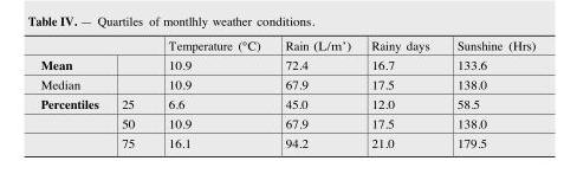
<table><thead><tr><td></td><td></td><td>Temperature (°C)</td><td>Rain (L/m’)</td><td>Rainy days</td><td>Sunshine (Hrs)</td></tr></thead><tbody><tr><td>Mean</td><td></td><td>10.9</td><td>72.4</td><td>16.7</td><td>133.6</td></tr><tr><td>Median</td><td></td><td>10.9</td><td>67.9</td><td>17.5</td><td>138.0</td></tr><tr><td rowspan="3">Percentiles</td><td>25</td><td>6.6</td><td>45.0</td><td>12.0</td><td>58.5</td></tr><tr><td>50</td><td>10.9</td><td>67.9</td><td>17.5</td><td>138.0</td></tr><tr><td>75</td><td>16.1</td><td>94.2</td><td>21.0</td><td>179.5</td></tr></tbody></table>